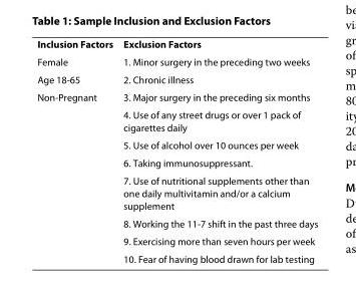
<table><tbody><tr><td>Inclusion Factors</td><td>Exclusion Factors</td></tr><tr><td>Female</td><td>1. Minor surgery in the preceding two weeks</td></tr><tr><td>Age 18-65</td><td>2. Chronic illness</td></tr><tr><td rowspan="8">Non-Pregnant</td><td>3. Major surgery in the preceding six months</td></tr><tr><td>4. Use of any street drugs or over 1 pack of cigarettes daily</td></tr><tr><td>5. Use of alcohol over 10 ounces per week</td></tr><tr><td>6. Taking immunosuppressant.</td></tr><tr><td>7. Use of nutritional supplements other than one daily multivitamin and/or a calcium supplement</td></tr><tr><td>8. Working the 11-7 shift in the past three days</td></tr><tr><td>9. Exercising more than seven hours per week</td></tr><tr><td>10. Fear of having blood drawn for lab testing</td></tr></tbody></table>